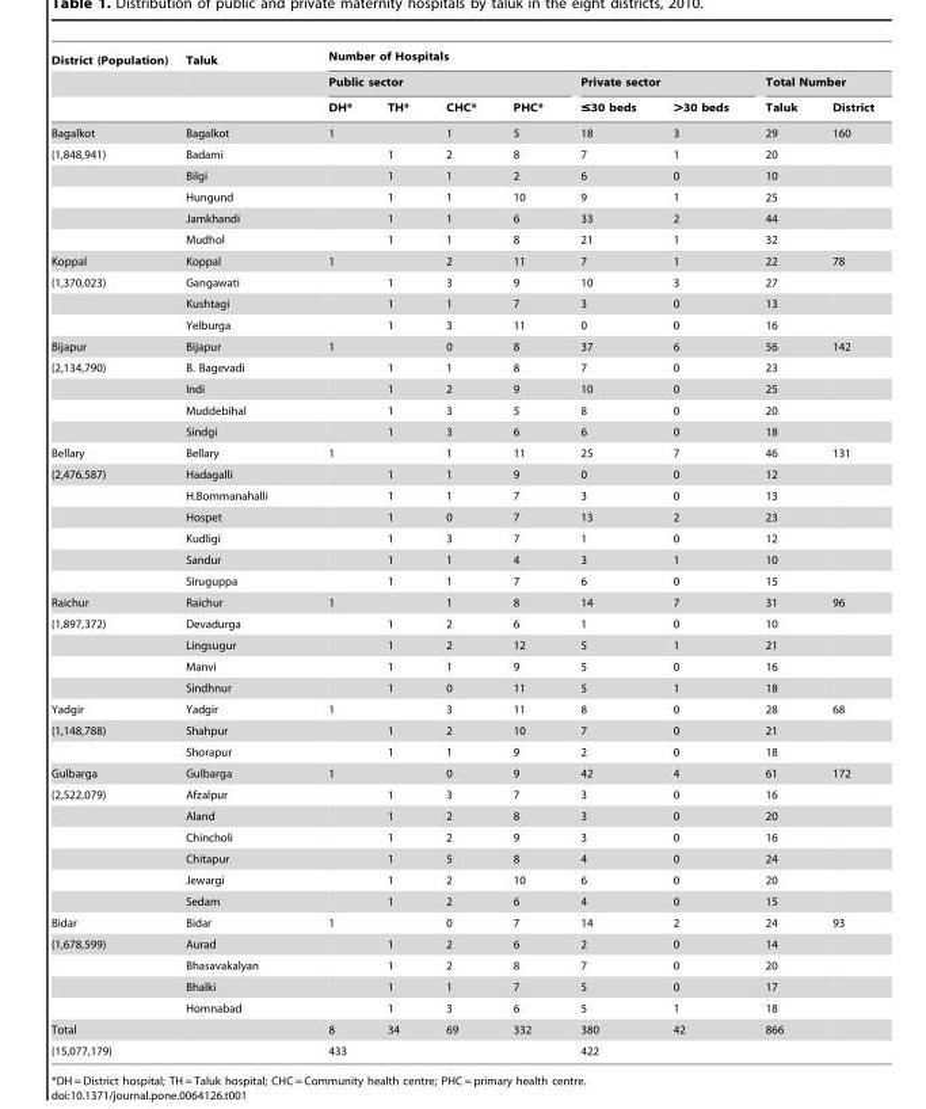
<table><thead><tr><td rowspan="3">District (Population)</td><td rowspan="3">Taluk</td><td colspan="8">Number of Hospitals</td></tr><tr><td colspan="4">Public sector</td><td colspan="2">Private sector</td><td colspan="2">Total Number</td></tr><tr><td>DH*</td><td>TH*</td><td>CHC*</td><td>PHC*</td><td>≤30 beds</td><td>&gt;30 beds</td><td>Taluk</td><td>District</td></tr></thead><tbody><tr><td>Bagalkot</td><td>Bagalkot</td><td>1</td><td></td><td>1</td><td>5</td><td>18</td><td>3</td><td>29</td><td>160</td></tr><tr><td rowspan="5">(1,848,941)</td><td>Badami</td><td></td><td>1</td><td>2</td><td>8</td><td>7</td><td>1</td><td>20</td><td></td></tr><tr><td>Bilgi</td><td></td><td>1</td><td>1</td><td>2</td><td>6</td><td>0</td><td>10</td><td></td></tr><tr><td>Hungund</td><td></td><td>1</td><td>1</td><td>10</td><td>9</td><td>1</td><td>25</td><td></td></tr><tr><td>Jamkhandi</td><td></td><td>1</td><td>1</td><td>6</td><td>33</td><td>2</td><td>44</td><td></td></tr><tr><td>Mudhol</td><td></td><td>1</td><td>1</td><td>8</td><td>21</td><td>1</td><td>32</td><td></td></tr><tr><td>Koppal</td><td>Koppal</td><td>1</td><td></td><td>2</td><td>11</td><td>7</td><td>1</td><td>22</td><td>78</td></tr><tr><td rowspan="3">(1,370,023)</td><td>Gangawati</td><td></td><td>1</td><td>3</td><td>9</td><td>10</td><td>3</td><td>27</td><td></td></tr><tr><td>Kushtagi</td><td></td><td>1</td><td>1</td><td>7</td><td>3</td><td>0</td><td>13</td><td></td></tr><tr><td>Yelburga</td><td></td><td>1</td><td>3</td><td>11</td><td>0</td><td>0</td><td>16</td><td></td></tr><tr><td>Bijapur</td><td>Bijapur</td><td>1</td><td></td><td>0</td><td>8</td><td>37</td><td>6</td><td>56</td><td>142</td></tr><tr><td rowspan="4">(2,134,790)</td><td>B. Bagevadi</td><td></td><td>1</td><td>1</td><td>8</td><td>7</td><td>0</td><td>23</td><td></td></tr><tr><td>Indi</td><td></td><td>1</td><td>2</td><td>9</td><td>10</td><td>0</td><td>25</td><td></td></tr><tr><td>Muddebihal</td><td></td><td>1</td><td>3</td><td>5</td><td>8</td><td>0</td><td>20</td><td></td></tr><tr><td>Sindgi</td><td></td><td>1</td><td>3</td><td>6</td><td>6</td><td>0</td><td>18</td><td></td></tr><tr><td>Bellary</td><td>Bellary</td><td>1</td><td></td><td>1</td><td>11</td><td>25</td><td>7</td><td>46</td><td>131</td></tr><tr><td rowspan="6">(2,476,587)</td><td>Hadagalli</td><td></td><td>1</td><td>1</td><td>9</td><td>0</td><td>0</td><td>12</td><td></td></tr><tr><td>H.Bommanahalli</td><td></td><td>1</td><td>1</td><td>7</td><td>3</td><td>0</td><td>13</td><td></td></tr><tr><td>Hospet</td><td></td><td>1</td><td>0</td><td>7</td><td>13</td><td>2</td><td>23</td><td></td></tr><tr><td>Kudligi</td><td></td><td>1</td><td>3</td><td>7</td><td>1</td><td>0</td><td>12</td><td></td></tr><tr><td>Sandur</td><td></td><td>1</td><td>1</td><td>4</td><td>3</td><td>1</td><td>10</td><td></td></tr><tr><td>Siruguppa</td><td></td><td>1</td><td>1</td><td>7</td><td>6</td><td>0</td><td>15</td><td></td></tr><tr><td>Raichur</td><td>Raichur</td><td>1</td><td></td><td>1</td><td>8</td><td>14</td><td>7</td><td>31</td><td>96</td></tr><tr><td rowspan="4">(1,897,372)</td><td>Devadurga</td><td></td><td>1</td><td>2</td><td>6</td><td>1</td><td>0</td><td>10</td><td></td></tr><tr><td>Lingsugur</td><td></td><td>1</td><td>2</td><td>12</td><td>5</td><td>1</td><td>21</td><td></td></tr><tr><td>Manvi</td><td></td><td>1</td><td>1</td><td>9</td><td>5</td><td>0</td><td>16</td><td></td></tr><tr><td>Sindhnur</td><td></td><td>1</td><td>0</td><td>11</td><td>5</td><td>1</td><td>18</td><td></td></tr><tr><td>Yadgir</td><td>Yadgir</td><td>1</td><td></td><td>3</td><td>11</td><td>8</td><td>0</td><td>28</td><td>68</td></tr><tr><td rowspan="2">(1,148,788)</td><td>Shahpur</td><td></td><td>1</td><td>2</td><td>10</td><td>7</td><td>0</td><td>21</td><td></td></tr><tr><td>Shorapur</td><td></td><td>1</td><td>1</td><td>9</td><td>2</td><td>0</td><td>18</td><td></td></tr><tr><td>Gulbarga</td><td>Gulbarga</td><td>1</td><td></td><td>0</td><td>9</td><td>42</td><td>4</td><td>61</td><td>172</td></tr><tr><td rowspan="6">(2,522,079)</td><td>Afzalpur</td><td></td><td>1</td><td>3</td><td>7</td><td>3</td><td>0</td><td>16</td><td></td></tr><tr><td>Aland</td><td></td><td>1</td><td>2</td><td>8</td><td>3</td><td>0</td><td>20</td><td></td></tr><tr><td>Chincholi</td><td></td><td>1</td><td>2</td><td>9</td><td>3</td><td>0</td><td>16</td><td></td></tr><tr><td>Chitapur</td><td></td><td>1</td><td>5</td><td>8</td><td>4</td><td>0</td><td>24</td><td></td></tr><tr><td>Jewargi</td><td></td><td>1</td><td>2</td><td>10</td><td>6</td><td>0</td><td>20</td><td></td></tr><tr><td>Sedam</td><td></td><td>1</td><td>2</td><td>6</td><td>4</td><td>0</td><td>15</td><td></td></tr><tr><td>Bidar</td><td>Bidar</td><td>1</td><td></td><td>0</td><td>7</td><td>14</td><td>2</td><td>24</td><td>93</td></tr><tr><td rowspan="4">(1,678,599)</td><td>Aurad</td><td></td><td>1</td><td>2</td><td>6</td><td>2</td><td>0</td><td>14</td><td></td></tr><tr><td>Bhasavakalyan</td><td></td><td>1</td><td>2</td><td>8</td><td>7</td><td>0</td><td>20</td><td></td></tr><tr><td>Bhalki</td><td></td><td>1</td><td>1</td><td>7</td><td>5</td><td>0</td><td>17</td><td></td></tr><tr><td>Homnabad</td><td></td><td>1</td><td>3</td><td>6</td><td>5</td><td>1</td><td>18</td><td></td></tr><tr><td>Total</td><td></td><td>8</td><td>34</td><td>69</td><td>332</td><td>380</td><td>42</td><td>866</td><td></td></tr><tr><td>(15,077,179)</td><td></td><td colspan="4">433</td><td colspan="2">422</td><td></td><td></td></tr></tbody></table>